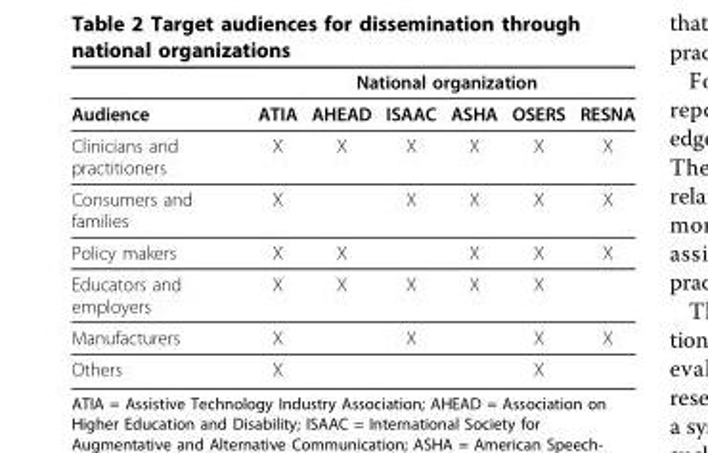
<table><thead><tr><td rowspan="2">Audience</td><td colspan="6">National organization</td></tr><tr><td>ATIA</td><td>AHEAD</td><td>ISAAC</td><td>ASHA</td><td>OSERS</td><td>RESNA</td></tr></thead><tbody><tr><td>Clinicians and practitioners</td><td>X</td><td>X</td><td>X</td><td>X</td><td>X</td><td>X</td></tr><tr><td>Consumers and families</td><td>X</td><td></td><td>X</td><td>X</td><td>X</td><td>X</td></tr><tr><td>Policy makers</td><td>X</td><td>X</td><td></td><td>X</td><td>X</td><td>X</td></tr><tr><td>Educators and employers</td><td>X</td><td>X</td><td>X</td><td>X</td><td>X</td><td></td></tr><tr><td>Manufacturers</td><td>X</td><td></td><td>X</td><td></td><td>X</td><td>X</td></tr><tr><td>Others</td><td>X</td><td></td><td></td><td></td><td>X</td><td></td></tr></tbody></table>